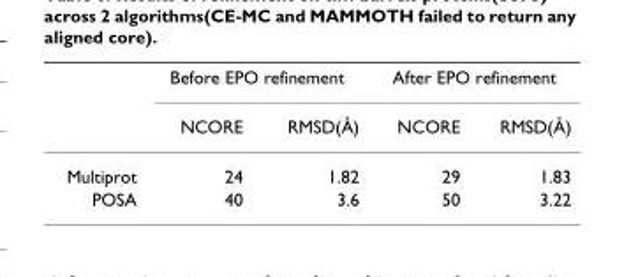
<table><thead><tr><td rowspan="2"></td><td colspan="2">Before EPO refinement</td><td colspan="2">After EPO refinement</td></tr><tr><td>NCORE</td><td>RMSD(Å)</td><td>NCORE</td><td>RMSD(Å)</td></tr></thead><tbody><tr><td>Multiprot</td><td>24</td><td>1.82</td><td>29</td><td>1.83</td></tr><tr><td>POSA</td><td>40</td><td>3.6</td><td>50</td><td>3.22</td></tr></tbody></table>